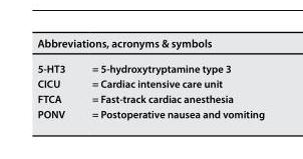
<table><thead><tr><td colspan="2">Abbreviations, acronyms &amp; symbols</td></tr><tr><td>5-HT3</td><td>= 5-hydroxytryptamine type 3</td></tr></thead><tbody><tr><td>CICU</td><td>= Cardiac intensive care unit</td></tr><tr><td>FTCA</td><td>= Fast-track cardiac anesthesia</td></tr><tr><td>PONV</td><td>= Postoperative nausea and vomiting</td></tr></tbody></table>